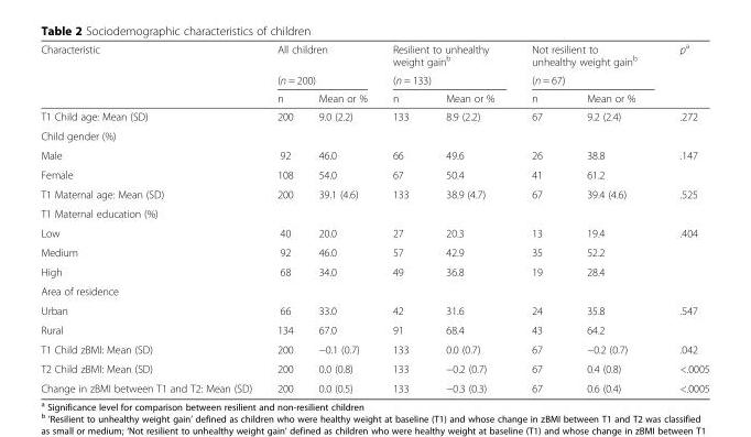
<table><thead><tr><td rowspan="3">Characteristic</td><td rowspan="2" colspan="2">All children (n = 200)</td><td rowspan="2" colspan="2">Resilient to unhealthy weight gain<sup>b</sup> (n = 133)</td><td rowspan="2" colspan="2">Not resilient to unhealthy weight gain<sup>b</sup> (n = 67)</td><td rowspan="3">p<sup>a</sup></td></tr><tr></tr><tr><td>n</td><td>Mean or %</td><td>n</td><td>Mean or %</td><td>n</td><td>Mean or %</td></tr></thead><tbody><tr><td>T1 Child age: Mean (SD)</td><td>200</td><td>9.0 (2.2)</td><td>133</td><td>8.9 (2.2)</td><td>67</td><td>9.2 (2.4)</td><td>.272</td></tr><tr><td colspan="8">Child gender (%)</td></tr><tr><td>Male</td><td>92</td><td>46.0</td><td>66</td><td>49.6</td><td>26</td><td>38.8</td><td>.147</td></tr><tr><td>Female</td><td>108</td><td>54.0</td><td>67</td><td>50.4</td><td>41</td><td>61.2</td><td></td></tr><tr><td>T1 Maternal age: Mean (SD)</td><td>200</td><td>39.1 (4.6)</td><td>133</td><td>38.9 (4.7)</td><td>67</td><td>39.4 (4.6)</td><td>.525</td></tr><tr><td colspan="8">T1 Maternal education (%)</td></tr><tr><td>Low</td><td>40</td><td>20.0</td><td>27</td><td>20.3</td><td>13</td><td>19.4</td><td>.404</td></tr><tr><td>Medium</td><td>92</td><td>46.0</td><td>57</td><td>42.9</td><td>35</td><td>52.2</td><td></td></tr><tr><td>High</td><td>68</td><td>34.0</td><td>49</td><td>36.8</td><td>19</td><td>28.4</td><td></td></tr><tr><td colspan="8">Area of residence</td></tr><tr><td>Urban</td><td>66</td><td>33.0</td><td>42</td><td>31.6</td><td>24</td><td>35.8</td><td>.547</td></tr><tr><td>Rural</td><td>134</td><td>67.0</td><td>91</td><td>68.4</td><td>43</td><td>64.2</td><td></td></tr><tr><td>T1 Child zBMI: Mean (SD)</td><td>200</td><td>−0.1 (0.7)</td><td>133</td><td>0.0 (0.7)</td><td>67</td><td>−0.2 (0.7)</td><td>.042</td></tr><tr><td>T2 Child zBMI: Mean (SD)</td><td>200</td><td>0.0 (0.8)</td><td>133</td><td>−0.2 (0.7)</td><td>67</td><td>0.4 (0.8)</td><td>&lt;.0005</td></tr><tr><td>Change in zBMI between T1 and T2: Mean (SD)</td><td>200</td><td>0.0 (0.5)</td><td>133</td><td>−0.3 (0.3)</td><td>67</td><td>0.6 (0.4)</td><td>&lt;.0005</td></tr></tbody></table>